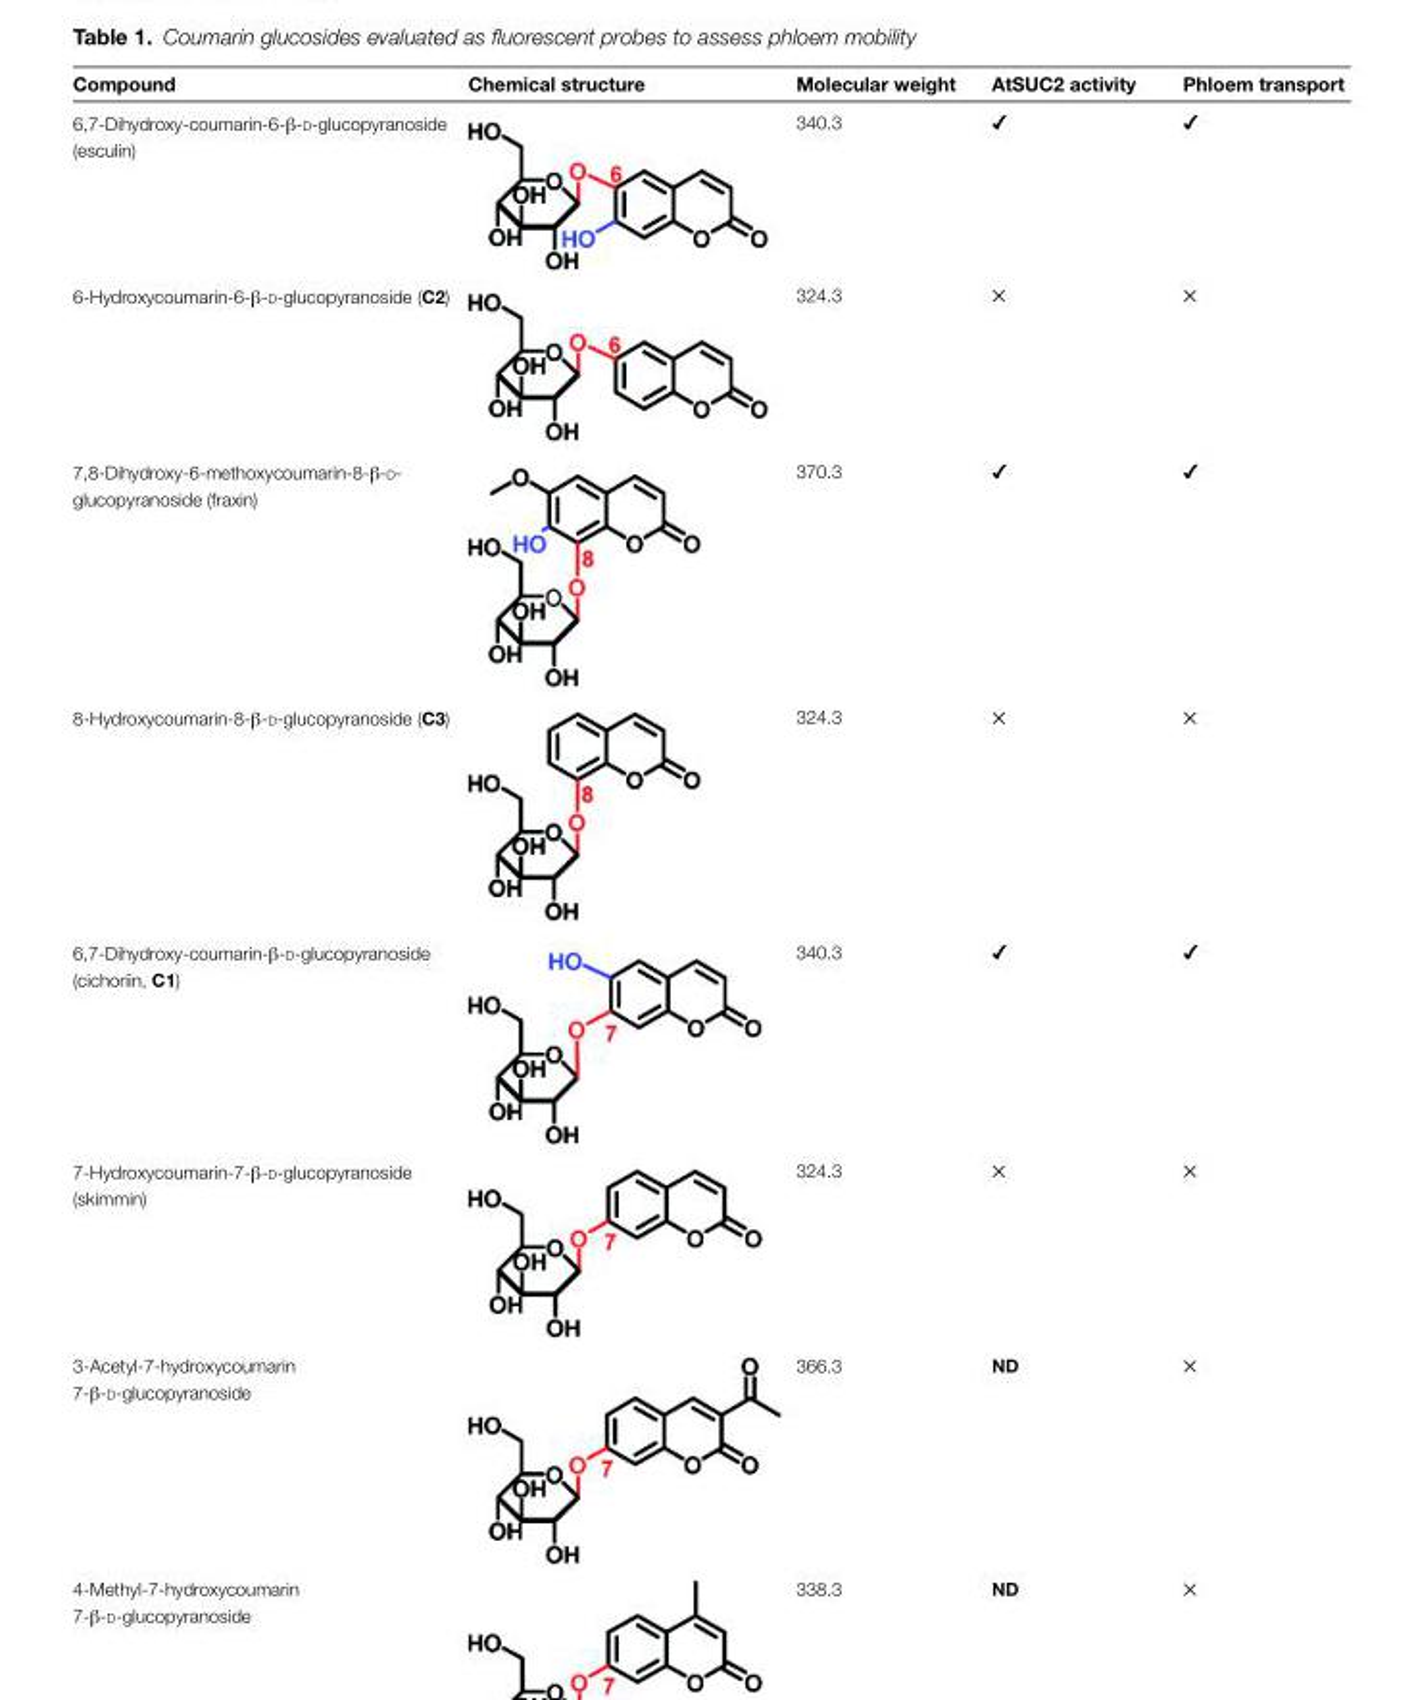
<table><thead><tr><td>Compound</td><td>Chemical structure</td><td>Molecular weight</td><td>AtSUC2 activity</td><td>Phloem transport</td></tr></thead><tbody><tr><td>6,7-Dihydroxy-coumarin-6-β-d-glucopyranoside (esculin)</td><td></td><td>340.3</td><td>✔</td><td>✔</td></tr><tr><td>6-Hydroxycoumarin-6-β-d-glucopyranoside (C2)</td><td></td><td>324.3</td><td>✕</td><td>✕</td></tr><tr><td>7,8-Dihydroxy-6-methoxycoumarin-8-β-d- glucopyranoside (fraxin)</td><td></td><td>370.3</td><td>✔</td><td>✔</td></tr><tr><td>8-Hydroxycoumarin-8-β-d-glucopyranoside (C3)</td><td></td><td>324.3</td><td>✕</td><td>✕</td></tr><tr><td>6,7-Dihydroxy-coumarin-β-d-glucopyranoside (cichoriin, C1)</td><td></td><td>340.3</td><td>✔</td><td>✔</td></tr><tr><td>7-Hydroxycoumarin-7-β-d-glucopyranoside (skimmin)</td><td></td><td>324.3</td><td>✕</td><td>✕</td></tr><tr><td>3-Acetyl-7-hydroxycoumarin 7-β-d-glucopyranoside</td><td></td><td>366.3</td><td>ND</td><td>✕</td></tr><tr><td>4-Methyl-7-hydroxycoumarin 7-β-d-glucopyranoside</td><td></td><td>338.3</td><td>ND</td><td>✕</td></tr></tbody></table>